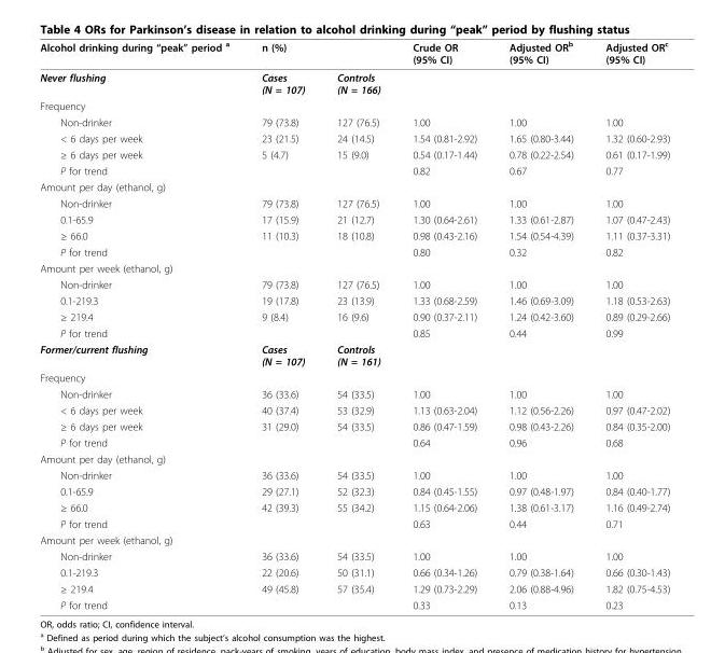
<table><thead><tr><td>Alcohol drinking during “peak” period a</td><td>n (%)</td><td></td><td>Crude OR (95% CI)</td><td>Adjusted OR<sup>b</sup> (95% CI)</td><td>Adjusted OR<sup>c</sup> (95% CI)</td></tr></thead><tbody><tr><td>Never flushing</td><td>Cases (N = 107)</td><td>Controls (N = 166)</td><td></td><td></td><td></td></tr><tr><td colspan="6">Frequency</td></tr><tr><td>Non-drinker</td><td>79 (73.8)</td><td>127 (76.5)</td><td>1.00</td><td>1.00</td><td>1.00</td></tr><tr><td>&lt; 6 days per week</td><td>23 (21.5)</td><td>24 (14.5)</td><td>1.54 (0.81-2.92)</td><td>1.65 (0.80-3.44)</td><td>1.32 (0.60-2.93)</td></tr><tr><td>≥ 6 days per week</td><td>5 (4.7)</td><td>15 (9.0)</td><td>0.54 (0.17-1.44)</td><td>0.78 (0.22-2.54)</td><td>0.61 (0.17-1.99)</td></tr><tr><td>P for trend</td><td></td><td></td><td>0.82</td><td>0.67</td><td>0.77</td></tr><tr><td colspan="6">Amount per day (ethanol, g)</td></tr><tr><td>Non-drinker</td><td>79 (73.8)</td><td>127 (76.5)</td><td>1.00</td><td>1.00</td><td>1.00</td></tr><tr><td>0.1-65.9</td><td>17 (15.9)</td><td>21 (12.7)</td><td>1.30 (0.64-2.61)</td><td>1.33 (0.61-2.87)</td><td>1.07 (0.47-2.43)</td></tr><tr><td>≥ 66.0</td><td>11 (10.3)</td><td>18 (10.8)</td><td>0.98 (0.43-2.16)</td><td>1.54 (0.54-4.39)</td><td>1.11 (0.37-3.31)</td></tr><tr><td>P for trend</td><td></td><td></td><td>0.80</td><td>0.32</td><td>0.82</td></tr><tr><td colspan="6">Amount per week (ethanol, g)</td></tr><tr><td>Non-drinker</td><td>79 (73.8)</td><td>127 (76.5)</td><td>1.00</td><td>1.00</td><td>1.00</td></tr><tr><td>0.1-219.3</td><td>19 (17.8)</td><td>23 (13.9)</td><td>1.33 (0.68-2.59)</td><td>1.46 (0.69-3.09)</td><td>1.18 (0.53-2.63)</td></tr><tr><td>≥ 219.4</td><td>9 (8.4)</td><td>16 (9.6)</td><td>0.90 (0.37-2.11)</td><td>1.24 (0.42-3.60)</td><td>0.89 (0.29-2.66)</td></tr><tr><td>P for trend</td><td></td><td></td><td>0.85</td><td>0.44</td><td>0.99</td></tr><tr><td>Former/current flushing</td><td>Cases (N = 107)</td><td>Controls (N = 161)</td><td></td><td></td><td></td></tr><tr><td colspan="6">Frequency</td></tr><tr><td>Non-drinker</td><td>36 (33.6)</td><td>54 (33.5)</td><td>1.00</td><td>1.00</td><td>1.00</td></tr><tr><td>&lt; 6 days per week</td><td>40 (37.4)</td><td>53 (32.9)</td><td>1.13 (0.63-2.04)</td><td>1.12 (0.56-2.26)</td><td>0.97 (0.47-2.02)</td></tr><tr><td>≥ 6 days per week</td><td>31 (29.0)</td><td>54 (33.5)</td><td>0.86 (0.47-1.59)</td><td>0.98 (0.43-2.26)</td><td>0.84 (0.35-2.00)</td></tr><tr><td>P for trend</td><td></td><td></td><td>0.64</td><td>0.96</td><td>0.68</td></tr><tr><td colspan="6">Amount per day (ethanol, g)</td></tr><tr><td>Non-drinker</td><td>36 (33.6)</td><td>54 (33.5)</td><td>1.00</td><td>1.00</td><td>1.00</td></tr><tr><td>0.1-65.9</td><td>29 (27.1)</td><td>52 (32.3)</td><td>0.84 (0.45-1.55)</td><td>0.97 (0.48-1.97)</td><td>0.84 (0.40-1.77)</td></tr><tr><td>≥ 66.0</td><td>42 (39.3)</td><td>55 (34.2)</td><td>1.15 (0.64-2.06)</td><td>1.38 (0.61-3.17)</td><td>1.16 (0.49-2.74)</td></tr><tr><td>P for trend</td><td></td><td></td><td>0.63</td><td>0.44</td><td>0.71</td></tr><tr><td colspan="6">Amount per week (ethanol, g)</td></tr><tr><td>Non-drinker</td><td>36 (33.6)</td><td>54 (33.5)</td><td>1.00</td><td>1.00</td><td>1.00</td></tr><tr><td>0.1-219.3</td><td>22 (20.6)</td><td>50 (31.1)</td><td>0.66 (0.34-1.26)</td><td>0.79 (0.38-1.64)</td><td>0.66 (0.30-1.43)</td></tr><tr><td>≥ 219.4</td><td>49 (45.8)</td><td>57 (35.4)</td><td>1.29 (0.73-2.29)</td><td>2.06 (0.88-4.96)</td><td>1.82 (0.75-4.53)</td></tr><tr><td>P for trend</td><td></td><td></td><td>0.33</td><td>0.13</td><td>0.23</td></tr></tbody></table>